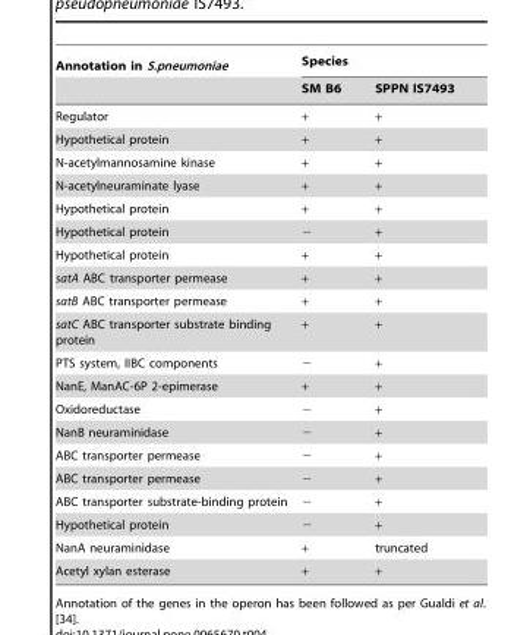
<table><thead><tr><td rowspan="2">Annotation in S.pneumoniae</td><td colspan="2">Species</td></tr><tr><td>SM B6</td><td>SPPN IS7493</td></tr></thead><tbody><tr><td>Regulator</td><td>+</td><td>+</td></tr><tr><td>Hypothetical protein</td><td>+</td><td>+</td></tr><tr><td>N-acetylmannosamine kinase</td><td>+</td><td>+</td></tr><tr><td>N-acetylneuraminate lyase</td><td>+</td><td>+</td></tr><tr><td>Hypothetical protein</td><td>+</td><td>+</td></tr><tr><td>Hypothetical protein</td><td>−</td><td>+</td></tr><tr><td>Hypothetical protein</td><td>+</td><td>+</td></tr><tr><td>satA ABC transporter permease</td><td>+</td><td>+</td></tr><tr><td>satB ABC transporter permease</td><td>+</td><td>+</td></tr><tr><td>satC ABC transporter substrate binding protein</td><td>+</td><td>+</td></tr><tr><td>PTS system, IIBC components</td><td>−</td><td>+</td></tr><tr><td>NanE, ManAC-6P 2-epimerase</td><td>+</td><td>+</td></tr><tr><td>Oxidoreductase</td><td>−</td><td>+</td></tr><tr><td>NanB neuraminidase</td><td>−</td><td>+</td></tr><tr><td>ABC transporter permease</td><td>−</td><td>+</td></tr><tr><td>ABC transporter permease</td><td>−</td><td>+</td></tr><tr><td>ABC transporter substrate-binding protein</td><td>−</td><td>+</td></tr><tr><td>Hypothetical protein</td><td>−</td><td>+</td></tr><tr><td>NanA neuraminidase</td><td>+</td><td>truncated</td></tr><tr><td>Acetyl xylan esterase</td><td>+</td><td>+</td></tr></tbody></table>